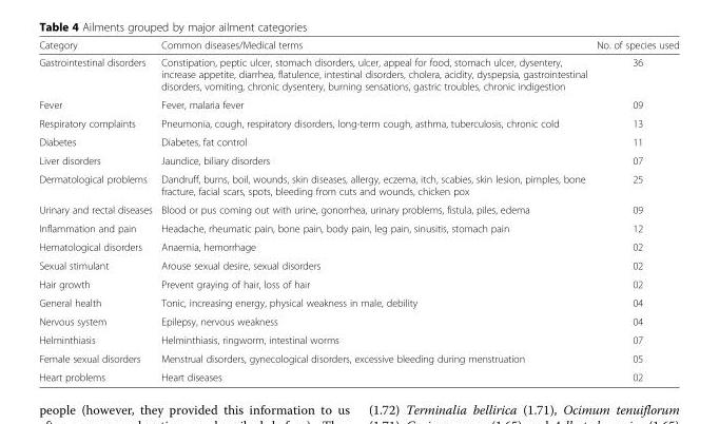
<table><thead><tr><td>Category</td><td>Common diseases/Medical terms</td><td>No. of species used</td></tr></thead><tbody><tr><td>Gastrointestinal disorders</td><td>Constipation, peptic ulcer, stomach disorders, ulcer, appeal for food, stomach ulcer, dysentery, increase appetite, diarrhea, flatulence, intestinal disorders, cholera, acidity, dyspepsia, gastrointestinal disorders, vomiting, chronic dysentery, burning sensations, gastric troubles, chronic indigestion</td><td>36</td></tr><tr><td>Fever</td><td>Fever, malaria fever</td><td>09</td></tr><tr><td>Respiratory complaints</td><td>Pneumonia, cough, respiratory disorders, long-term cough, asthma, tuberculosis, chronic cold</td><td>13</td></tr><tr><td>Diabetes</td><td>Diabetes, fat control</td><td>11</td></tr><tr><td>Liver disorders</td><td>Jaundice, biliary disorders</td><td>07</td></tr><tr><td>Dermatological problems</td><td>Dandruff, burns, boil, wounds, skin diseases, allergy, eczema, itch, scabies, skin lesion, pimples, bone fracture, facial scars, spots, bleeding from cuts and wounds, chicken pox</td><td>25</td></tr><tr><td>Urinary and rectal diseases</td><td>Blood or pus coming out with urine, gonorrhea, urinary problems, fistula, piles, edema</td><td>09</td></tr><tr><td>Inflammation and pain</td><td>Headache, rheumatic pain, bone pain, body pain, leg pain, sinusitis, stomach pain</td><td>12</td></tr><tr><td>Hematological disorders</td><td>Anaemia, hemorrhage</td><td>02</td></tr><tr><td>Sexual stimulant</td><td>Arouse sexual desire, sexual disorders</td><td>02</td></tr><tr><td>Hair growth</td><td>Prevent graying of hair, loss of hair</td><td>02</td></tr><tr><td>General health</td><td>Tonic, increasing energy, physical weakness in male, debility</td><td>04</td></tr><tr><td>Nervous system</td><td>Epilepsy, nervous weakness</td><td>04</td></tr><tr><td>Helminthiasis</td><td>Helminthiasis, ringworm, intestinal worms</td><td>07</td></tr><tr><td>Female sexual disorders</td><td>Menstrual disorders, gynecological disorders, excessive bleeding during menstruation</td><td>05</td></tr><tr><td>Heart problems</td><td>Heart diseases</td><td>02</td></tr></tbody></table>